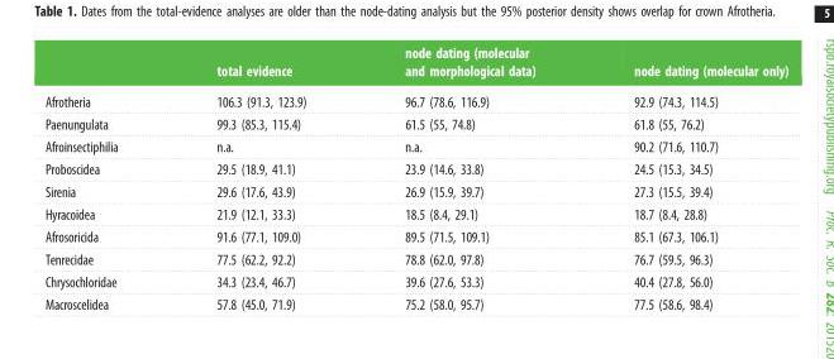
<table><thead><tr><td></td><td>total evidence</td><td>node dating (molecular and morphological data)</td><td>node dating (molecular only)</td></tr></thead><tbody><tr><td>Afrotheria</td><td>106.3 (91.3, 123.9)</td><td>96.7 (78.6, 116.9)</td><td>92.9 (74.3, 114.5)</td></tr><tr><td>Paenungulata</td><td>99.3 (85.3, 115.4)</td><td>61.5 (55, 74.8)</td><td>61.8 (55, 76.2)</td></tr><tr><td>Afroinsectiphilia</td><td>n.a.</td><td>n.a.</td><td>90.2 (71.6, 110.7)</td></tr><tr><td>Proboscidea</td><td>29.5 (18.9, 41.1)</td><td>23.9 (14.6, 33.8)</td><td>24.5 (15.3, 34.5)</td></tr><tr><td>Sirenia</td><td>29.6 (17.6, 43.9)</td><td>26.9 (15.9, 39.7)</td><td>27.3 (15.5, 39.4)</td></tr><tr><td>Hyracoidea</td><td>21.9 (12.1, 33.3)</td><td>18.5 (8.4, 29.1)</td><td>18.7 (8.4, 28.8)</td></tr><tr><td>Afrosoricida</td><td>91.6 (77.1, 109.0)</td><td>89.5 (71.5, 109.1)</td><td>85.1 (67.3, 106.1)</td></tr><tr><td>Tenrecidae</td><td>77.5 (62.2, 92.2)</td><td>78.8 (62.0, 97.8)</td><td>76.7 (59.5, 96.3)</td></tr><tr><td>Chrysochloridae</td><td>34.3 (23.4, 46.7)</td><td>39.6 (27.6, 53.3)</td><td>40.4 (27.8, 56.0)</td></tr><tr><td>Macroscelidea</td><td>57.8 (45.0, 71.9)</td><td>75.2 (58.0, 95.7)</td><td>77.5 (58.6, 98.4)</td></tr></tbody></table>